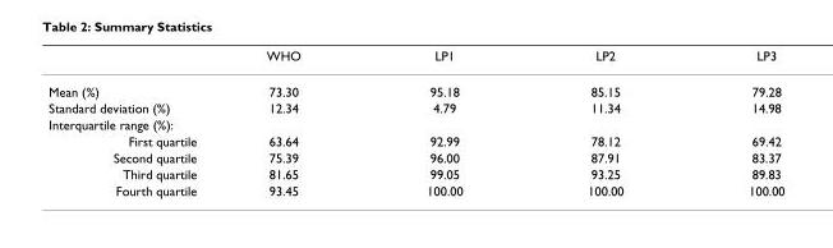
<table><thead><tr><td></td><td>WHO</td><td>LP1</td><td>LP2</td><td>LP3</td></tr></thead><tbody><tr><td>Mean (%)</td><td>73.30</td><td>95.18</td><td>85.15</td><td>79.28</td></tr><tr><td>Standard deviation (%)</td><td>12.34</td><td>4.79</td><td>11.34</td><td>14.98</td></tr><tr><td colspan="5">Interquartile range (%):</td></tr><tr><td>First quartile</td><td>63.64</td><td>92.99</td><td>78.12</td><td>69.42</td></tr><tr><td>Second quartile</td><td>75.39</td><td>96.00</td><td>87.91</td><td>83.37</td></tr><tr><td>Third quartile</td><td>81.65</td><td>99.05</td><td>93.25</td><td>89.83</td></tr><tr><td>Fourth quartile</td><td>93.45</td><td>100.00</td><td>100.00</td><td>100.00</td></tr></tbody></table>